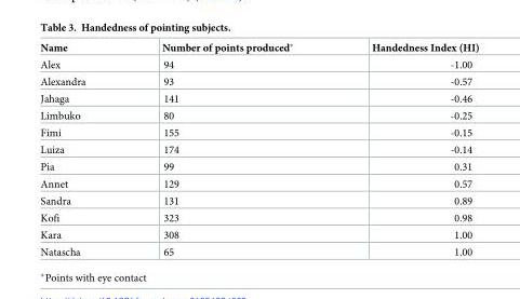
<table><thead><tr><td>Name</td><td>Number of points produced*</td><td>Handedness Index (HI)</td></tr></thead><tbody><tr><td>Alex</td><td>94</td><td>-1.00</td></tr><tr><td>Alexandra</td><td>93</td><td>-0.57</td></tr><tr><td>Jahaga</td><td>141</td><td>-0.46</td></tr><tr><td>Limbuko</td><td>80</td><td>-0.25</td></tr><tr><td>Fimi</td><td>155</td><td>-0.15</td></tr><tr><td>Luiza</td><td>174</td><td>-0.14</td></tr><tr><td>Pia</td><td>99</td><td>0.31</td></tr><tr><td>Annet</td><td>129</td><td>0.57</td></tr><tr><td>Sandra</td><td>131</td><td>0.89</td></tr><tr><td>Kofi</td><td>323</td><td>0.98</td></tr><tr><td>Kara</td><td>308</td><td>1.00</td></tr><tr><td>Natascha</td><td>65</td><td>1.00</td></tr></tbody></table>